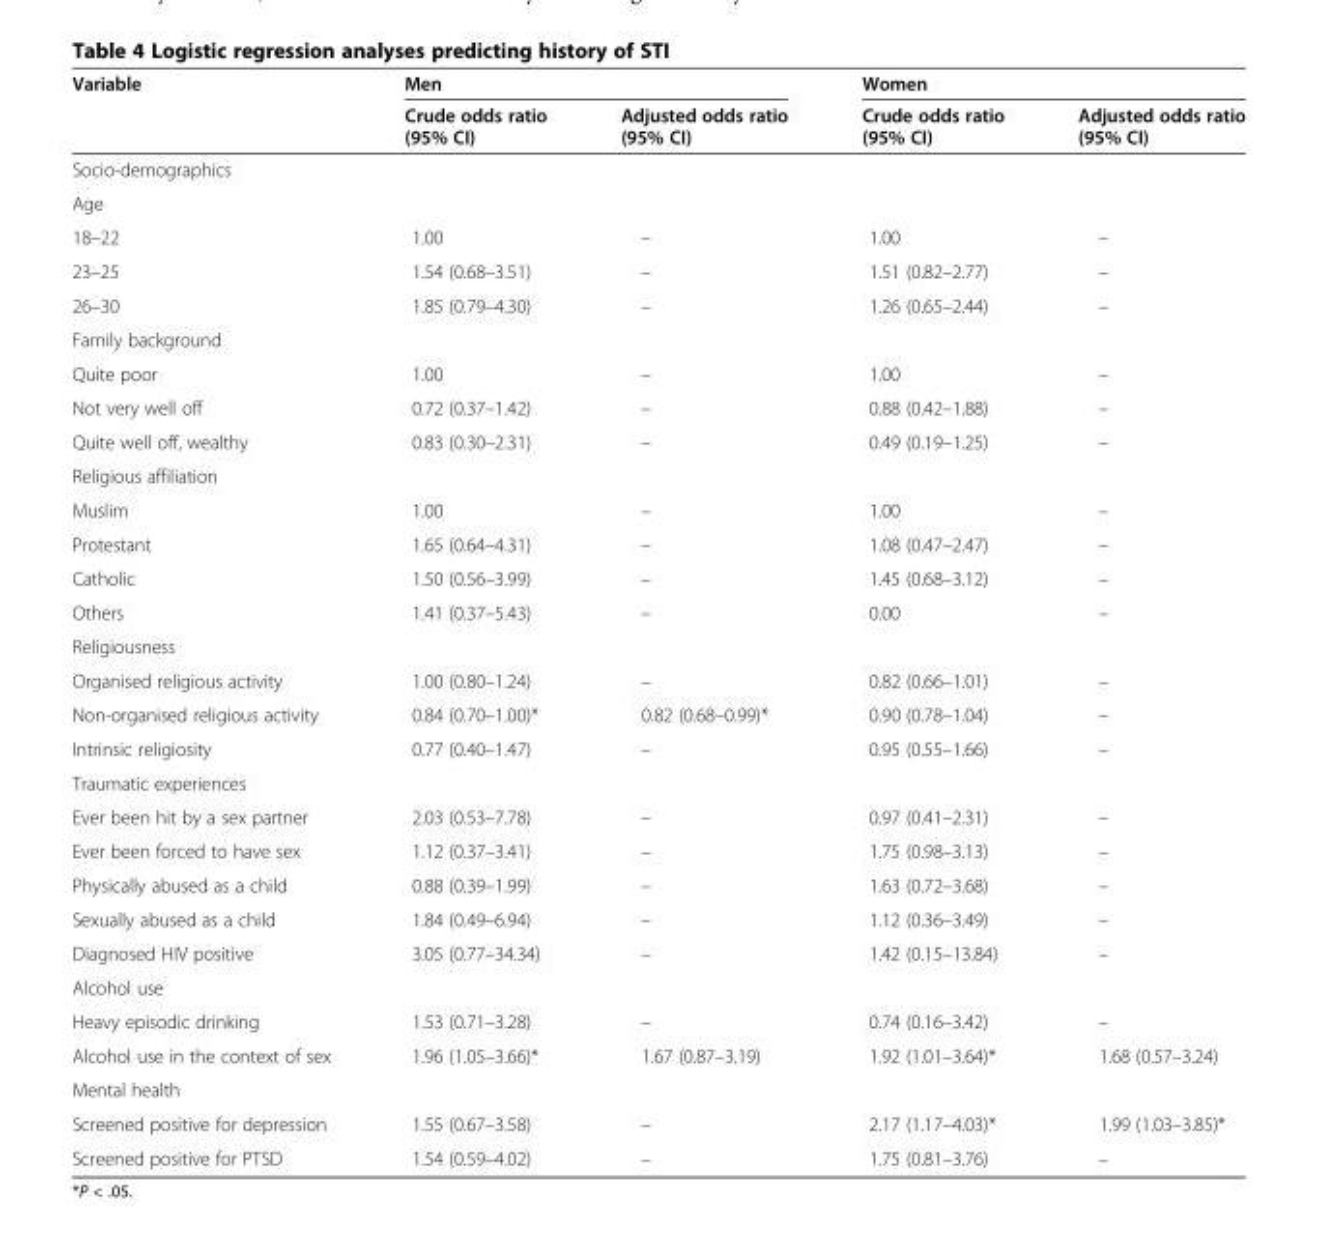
<table><thead><tr><td rowspan="2">Variable</td><td colspan="2">Men</td><td colspan="2">Women</td></tr><tr><td>Crude odds ratio (95% CI)</td><td>Adjusted odds ratio (95% CI)</td><td>Crude odds ratio (95% CI)</td><td>Adjusted odds ratio (95% CI)</td></tr></thead><tbody><tr><td colspan="5">Socio-demographics</td></tr><tr><td colspan="5">Age</td></tr><tr><td>18–22</td><td>1.00</td><td>–</td><td>1.00</td><td>–</td></tr><tr><td>23–25</td><td>1.54 (0.68–3.51)</td><td>–</td><td>1.51 (0.82–2.77)</td><td>–</td></tr><tr><td>26–30</td><td>1.85 (0.79–4.30)</td><td>–</td><td>1.26 (0.65–2.44)</td><td>–</td></tr><tr><td colspan="5">Family background</td></tr><tr><td>Quite poor</td><td>1.00</td><td>–</td><td>1.00</td><td>–</td></tr><tr><td>Not very well off</td><td>0.72 (0.37–1.42)</td><td>–</td><td>0.88 (0.42–1.88)</td><td>–</td></tr><tr><td>Quite well off, wealthy</td><td>0.83 (0.30–2.31)</td><td>–</td><td>0.49 (0.19–1.25)</td><td>–</td></tr><tr><td colspan="5">Religious affiliation</td></tr><tr><td>Muslim</td><td>1.00</td><td>–</td><td>1.00</td><td>–</td></tr><tr><td>Protestant</td><td>1.65 (0.64–4.31)</td><td>–</td><td>1.08 (0.47–2.47)</td><td>–</td></tr><tr><td>Catholic</td><td>1.50 (0.56–3.99)</td><td>–</td><td>1.45 (0.68–3.12)</td><td>–</td></tr><tr><td>Others</td><td>1.41 (0.37–5.43)</td><td>–</td><td>0.00</td><td>–</td></tr><tr><td colspan="5">Religiousness</td></tr><tr><td>Organised religious activity</td><td>1.00 (0.80–1.24)</td><td>–</td><td>0.82 (0.66–1.01)</td><td>–</td></tr><tr><td>Non-organised religious activity</td><td>0.84 (0.70–1.00)*</td><td>0.82 (0.68–0.99)*</td><td>0.90 (0.78–1.04)</td><td>–</td></tr><tr><td>Intrinsic religiosity</td><td>0.77 (0.40–1.47)</td><td>–</td><td>0.95 (0.55–1.66)</td><td>–</td></tr><tr><td colspan="5">Traumatic experiences</td></tr><tr><td>Ever been hit by a sex partner</td><td>2.03 (0.53–7.78)</td><td>–</td><td>0.97 (0.41–2.31)</td><td>–</td></tr><tr><td>Ever been forced to have sex</td><td>1.12 (0.37–3.41)</td><td>–</td><td>1.75 (0.98–3.13)</td><td>–</td></tr><tr><td>Physically abused as a child</td><td>0.88 (0.39–1.99)</td><td>–</td><td>1.63 (0.72–3.68)</td><td>–</td></tr><tr><td>Sexually abused as a child</td><td>1.84 (0.49–6.94)</td><td>–</td><td>1.12 (0.36–3.49)</td><td>–</td></tr><tr><td>Diagnosed HIV positive</td><td>3.05 (0.77–34.34)</td><td>–</td><td>1.42 (0.15–13.84)</td><td>–</td></tr><tr><td colspan="5">Alcohol use</td></tr><tr><td>Heavy episodic drinking</td><td>1.53 (0.71–3.28)</td><td>–</td><td>0.74 (0.16–3.42)</td><td>–</td></tr><tr><td>Alcohol use in the context of sex</td><td>1.96 (1.05–3.66)*</td><td>1.67 (0.87–3.19)</td><td>1.92 (1.01–3.64)*</td><td>1.68 (0.57–3.24)</td></tr><tr><td colspan="5">Mental health</td></tr><tr><td>Screened positive for depression</td><td>1.55 (0.67–3.58)</td><td>–</td><td>2.17 (1.17–4.03)*</td><td>1.99 (1.03–3.85)*</td></tr><tr><td>Screened positive for PTSD</td><td>1.54 (0.59–4.02)</td><td>–</td><td>1.75 (0.81–3.76)</td><td>–</td></tr></tbody></table>